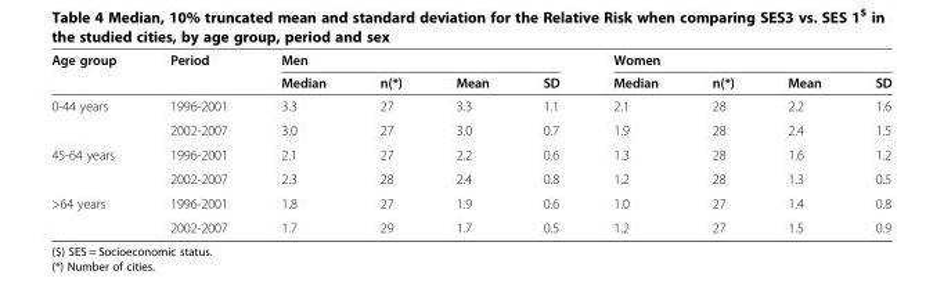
<table><thead><tr><td rowspan="2">Age group</td><td rowspan="2">Period</td><td colspan="4">Men</td><td colspan="4">Women</td></tr><tr><td>Median</td><td>n(*)</td><td>Mean</td><td>SD</td><td>Median</td><td>n(*)</td><td>Mean</td><td>SD</td></tr></thead><tbody><tr><td rowspan="2">0-44 years</td><td>1996-2001</td><td>3.3</td><td>27</td><td>3.3</td><td>1.1</td><td>2.1</td><td>28</td><td>2.2</td><td>1.6</td></tr><tr><td>2002-2007</td><td>3.0</td><td>27</td><td>3.0</td><td>0.7</td><td>1.9</td><td>28</td><td>2.4</td><td>1.5</td></tr><tr><td rowspan="2">45-64 years</td><td>1996-2001</td><td>2.1</td><td>27</td><td>2.2</td><td>0.6</td><td>1.3</td><td>28</td><td>1.6</td><td>1.2</td></tr><tr><td>2002-2007</td><td>2.3</td><td>28</td><td>2.4</td><td>0.8</td><td>1.2</td><td>28</td><td>1.3</td><td>0.5</td></tr><tr><td rowspan="2">&gt;64 years</td><td>1996-2001</td><td>1.8</td><td>27</td><td>1.9</td><td>0.6</td><td>1.0</td><td>27</td><td>1.4</td><td>0.8</td></tr><tr><td>2002-2007</td><td>1.7</td><td>29</td><td>1.7</td><td>0.5</td><td>1.2</td><td>27</td><td>1.5</td><td>0.9</td></tr></tbody></table>